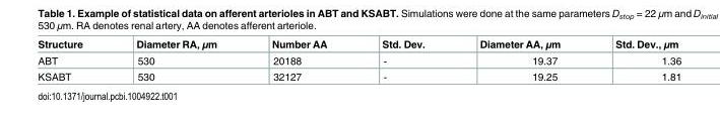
<table><thead><tr><td>Structure</td><td>Diameter RA, μm</td><td>Number AA</td><td>Std. Dev.</td><td>Diameter AA, μm</td><td>Std. Dev., μm</td></tr></thead><tbody><tr><td>ABT</td><td>530</td><td>20188</td><td>-</td><td>19.37</td><td>1.36</td></tr><tr><td>KSABT</td><td>530</td><td>32127</td><td>-</td><td>19.25</td><td>1.81</td></tr></tbody></table>